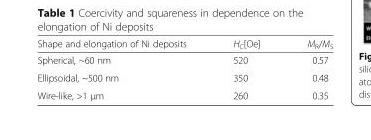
<table><thead><tr><td>Shape and elongation of Ni deposits</td><td>H<sub>C</sub>[Oe]</td><td>M<sub>R</sub>/M<sub>S</sub></td></tr></thead><tbody><tr><td>Spherical, ~60 nm</td><td>520</td><td>0.57</td></tr><tr><td>Ellipsoidal, ~500 nm</td><td>350</td><td>0.48</td></tr><tr><td>Wire-like, &gt;1 μm</td><td>260</td><td>0.35</td></tr></tbody></table>